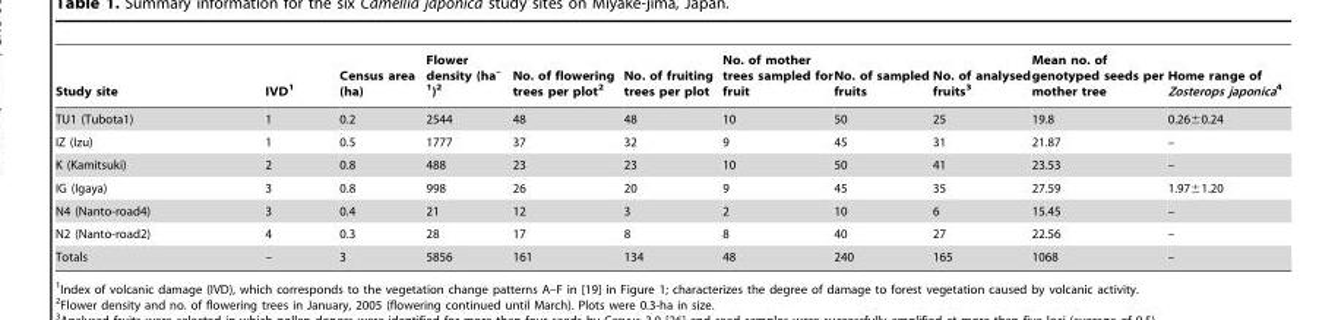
<table><thead><tr><td>Study site</td><td>IVD<sup>1</sup></td><td>Census area (ha)</td><td>Flower density (ha<sup>– 1</sup>)<sup>2</sup></td><td>No. of flowering trees per plot<sup>2</sup></td><td>No. of fruiting trees per plot</td><td>No. of mother trees sampled for fruit</td><td>No. of sampled fruits</td><td>No. of analysed fruits<sup>3</sup></td><td>Mean no. of genotyped seeds per mother tree</td><td>Home range of Zosterops japonica4</td></tr></thead><tbody><tr><td>TU1 (Tubota1)</td><td>1</td><td>0.2</td><td>2544</td><td>48</td><td>48</td><td>10</td><td>50</td><td>25</td><td>19.8</td><td>0.26±0.24</td></tr><tr><td>IZ (Izu)</td><td>1</td><td>0.5</td><td>1777</td><td>37</td><td>32</td><td>9</td><td>45</td><td>31</td><td>21.87</td><td>–</td></tr><tr><td>K (Kamitsuki)</td><td>2</td><td>0.8</td><td>488</td><td>23</td><td>23</td><td>10</td><td>50</td><td>41</td><td>23.53</td><td>–</td></tr><tr><td>IG (Igaya)</td><td>3</td><td>0.8</td><td>998</td><td>26</td><td>20</td><td>9</td><td>45</td><td>35</td><td>27.59</td><td>1.97±1.20</td></tr><tr><td>N4 (Nanto-road4)</td><td>3</td><td>0.4</td><td>21</td><td>12</td><td>3</td><td>2</td><td>10</td><td>6</td><td>15.45</td><td>–</td></tr><tr><td>N2 (Nanto-road2)</td><td>4</td><td>0.3</td><td>28</td><td>17</td><td>8</td><td>8</td><td>40</td><td>27</td><td>22.56</td><td>–</td></tr><tr><td>Totals</td><td>–</td><td>3</td><td>5856</td><td>161</td><td>134</td><td>48</td><td>240</td><td>165</td><td>1068</td><td>–</td></tr></tbody></table>